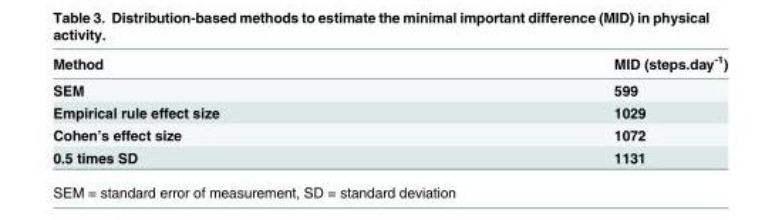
<table><thead><tr><td>Method</td><td>MID (steps.day<sup>-1</sup>)</td></tr></thead><tbody><tr><td>SEM</td><td>599</td></tr><tr><td>Empirical rule effect size</td><td>1029</td></tr><tr><td>Cohen’s effect size</td><td>1072</td></tr><tr><td>0.5 times SD</td><td>1131</td></tr></tbody></table>